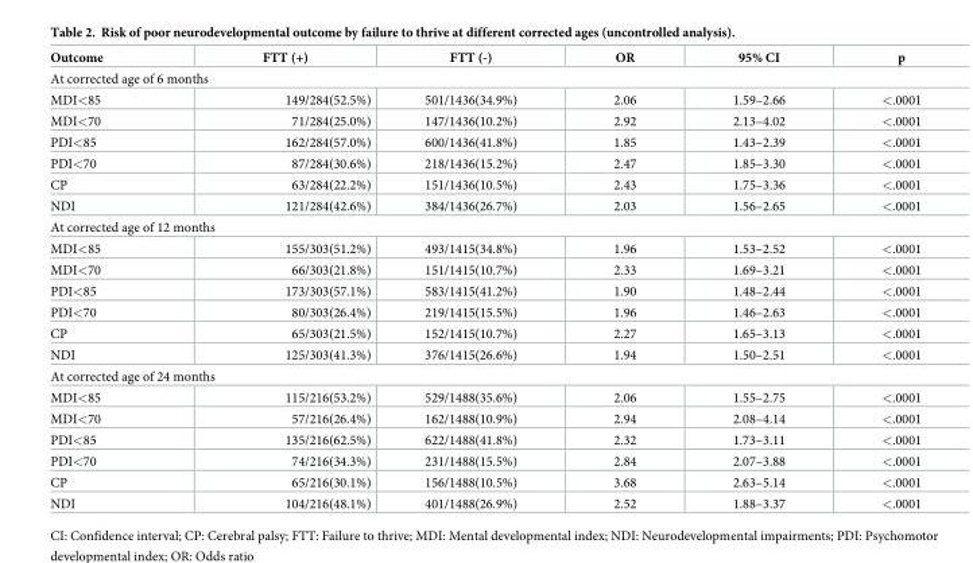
<table><thead><tr><td>Outcome</td><td>FTT (+)</td><td>FTT (-)</td><td>OR</td><td>95% CI</td><td>p</td></tr></thead><tbody><tr><td colspan="6">At corrected age of 6 months</td></tr><tr><td>MDI&lt;85</td><td>149/284(52.5%)</td><td>501/1436(34.9%)</td><td>2.06</td><td>1.59–2.66</td><td>&lt;.0001</td></tr><tr><td>MDI&lt;70</td><td>71/284(25.0%)</td><td>147/1436(10.2%)</td><td>2.92</td><td>2.13–4.02</td><td>&lt;.0001</td></tr><tr><td>PDI&lt;85</td><td>162/284(57.0%)</td><td>600/1436(41.8%)</td><td>1.85</td><td>1.43–2.39</td><td>&lt;.0001</td></tr><tr><td>PDI&lt;70</td><td>87/284(30.6%)</td><td>218/1436(15.2%)</td><td>2.47</td><td>1.85–3.30</td><td>&lt;.0001</td></tr><tr><td>CP</td><td>63/284(22.2%)</td><td>151/1436(10.5%)</td><td>2.43</td><td>1.75–3.36</td><td>&lt;.0001</td></tr><tr><td>NDI</td><td>121/284(42.6%)</td><td>384/1436(26.7%)</td><td>2.03</td><td>1.56–2.65</td><td>&lt;.0001</td></tr><tr><td colspan="6">At corrected age of 12 months</td></tr><tr><td>MDI&lt;85</td><td>155/303(51.2%)</td><td>493/1415(34.8%)</td><td>1.96</td><td>1.53–2.52</td><td>&lt;.0001</td></tr><tr><td>MDI&lt;70</td><td>66/303(21.8%)</td><td>151/1415(10.7%)</td><td>2.33</td><td>1.69–3.21</td><td>&lt;.0001</td></tr><tr><td>PDI&lt;85</td><td>173/303(57.1%)</td><td>583/1415(41.2%)</td><td>1.90</td><td>1.48–2.44</td><td>&lt;.0001</td></tr><tr><td>PDI&lt;70</td><td>80/303(26.4%)</td><td>219/1415(15.5%)</td><td>1.96</td><td>1.46–2.63</td><td>&lt;.0001</td></tr><tr><td>CP</td><td>65/303(21.5%)</td><td>152/1415(10.7%)</td><td>2.27</td><td>1.65–3.13</td><td>&lt;.0001</td></tr><tr><td>NDI</td><td>125/303(41.3%)</td><td>376/1415(26.6%)</td><td>1.94</td><td>1.50–2.51</td><td>&lt;.0001</td></tr><tr><td colspan="6">At corrected age of 24 months</td></tr><tr><td>MDI&lt;85</td><td>115/216(53.2%)</td><td>529/1488(35.6%)</td><td>2.06</td><td>1.55–2.75</td><td>&lt;.0001</td></tr><tr><td>MDI&lt;70</td><td>57/216(26.4%)</td><td>162/1488(10.9%)</td><td>2.94</td><td>2.08–4.14</td><td>&lt;.0001</td></tr><tr><td>PDI&lt;85</td><td>135/216(62.5%)</td><td>622/1488(41.8%)</td><td>2.32</td><td>1.73–3.11</td><td>&lt;.0001</td></tr><tr><td>PDI&lt;70</td><td>74/216(34.3%)</td><td>231/1488(15.5%)</td><td>2.84</td><td>2.07–3.88</td><td>&lt;.0001</td></tr><tr><td>CP</td><td>65/216(30.1%)</td><td>156/1488(10.5%)</td><td>3.68</td><td>2.63–5.14</td><td>&lt;.0001</td></tr><tr><td>NDI</td><td>104/216(48.1%)</td><td>401/1488(26.9%)</td><td>2.52</td><td>1.88–3.37</td><td>&lt;.0001</td></tr></tbody></table>